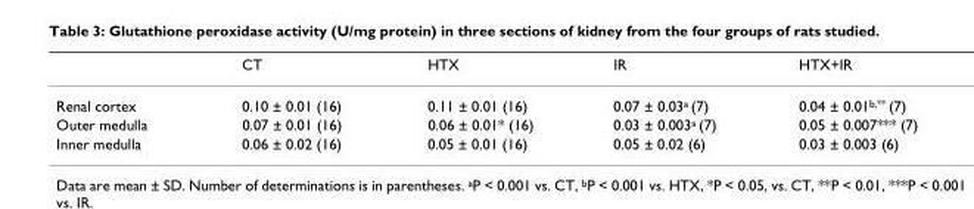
<table><thead><tr><td></td><td>CT</td><td>HTX</td><td>IR</td><td>HTX+IR</td></tr></thead><tbody><tr><td>Renal cortex</td><td>0.10 ± 0.01 (16)</td><td>0.11 ± 0.01 (16)</td><td>0.07 ± 0.03a (7)</td><td>0.04 ± 0.01b,** (7)</td></tr><tr><td>Outer medulla</td><td>0.07 ± 0.01 (16)</td><td>0.06 ± 0.01* (16)</td><td>0.03 ± 0.003a (7)</td><td>0.05 ± 0.007*** (7)</td></tr><tr><td>Inner medulla</td><td>0.06 ± 0.02 (16)</td><td>0.05 ± 0.01 (16)</td><td>0.05 ± 0.02 (6)</td><td>0.03 ± 0.003 (6)</td></tr></tbody></table>